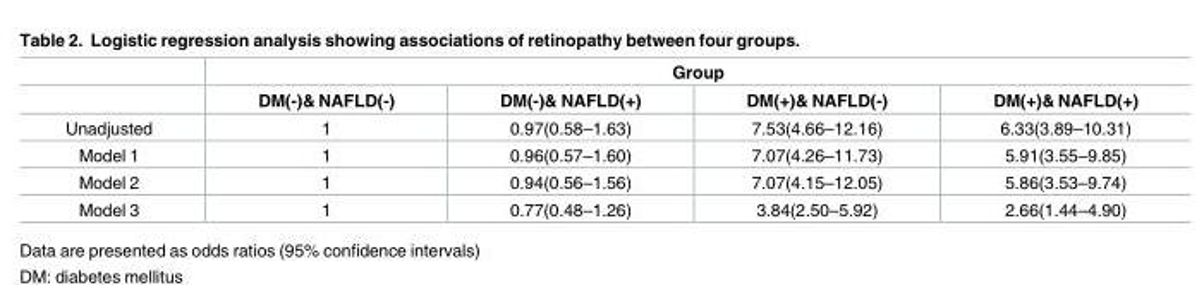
<table><thead><tr><td rowspan="2"></td><td colspan="4">Group</td></tr><tr><td>DM(-)&amp; NAFLD(-)</td><td>DM(-)&amp; NAFLD(+)</td><td>DM(+)&amp; NAFLD(-)</td><td>DM(+)&amp; NAFLD(+)</td></tr></thead><tbody><tr><td>Unadjusted</td><td>1</td><td>0.97(0.58–1.63)</td><td>7.53(4.66–12.16)</td><td>6.33(3.89–10.31)</td></tr><tr><td>Model 1</td><td>1</td><td>0.96(0.57–1.60)</td><td>7.07(4.26–11.73)</td><td>5.91(3.55–9.85)</td></tr><tr><td>Model 2</td><td>1</td><td>0.94(0.56–1.56)</td><td>7.07(4.15–12.05)</td><td>5.86(3.53–9.74)</td></tr><tr><td>Model 3</td><td>1</td><td>0.77(0.48–1.26)</td><td>3.84(2.50–5.92)</td><td>2.66(1.44–4.90)</td></tr></tbody></table>